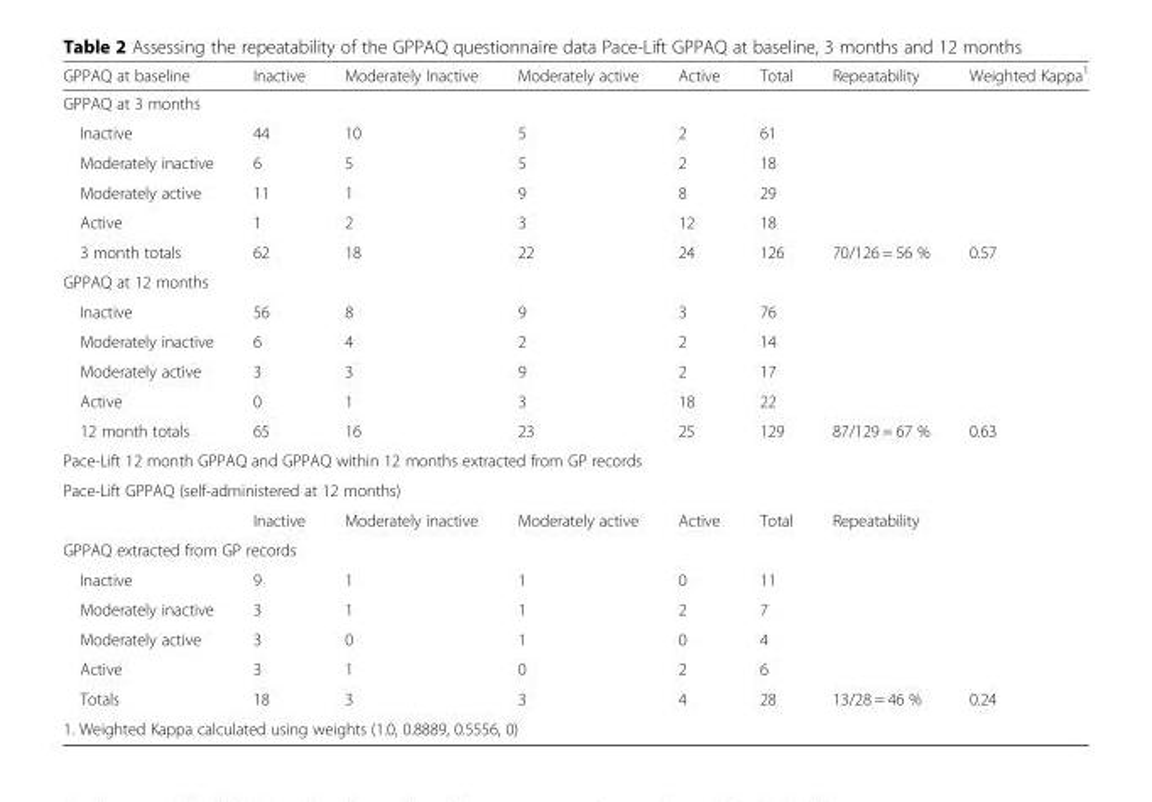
<table><thead><tr><td>GPPAQ at baseline</td><td>Inactive</td><td>Moderately Inactive</td><td>Moderately active</td><td>Active</td><td>Total</td><td>Repeatability</td><td>Weighted Kappa<sup>1</sup></td></tr></thead><tbody><tr><td colspan="8">GPPAQ at 3 months</td></tr><tr><td>Inactive</td><td>44</td><td>10</td><td>5</td><td>2</td><td>61</td><td></td><td></td></tr><tr><td>Moderately inactive</td><td>6</td><td>5</td><td>5</td><td>2</td><td>18</td><td></td><td></td></tr><tr><td>Moderately active</td><td>11</td><td>1</td><td>9</td><td>8</td><td>29</td><td></td><td></td></tr><tr><td>Active</td><td>1</td><td>2</td><td>3</td><td>12</td><td>18</td><td></td><td></td></tr><tr><td>3 month totals</td><td>62</td><td>18</td><td>22</td><td>24</td><td>126</td><td>70/126 = 56 %</td><td>0.57</td></tr><tr><td colspan="8">GPPAQ at 12 months</td></tr><tr><td>Inactive</td><td>56</td><td>8</td><td>9</td><td>3</td><td>76</td><td></td><td></td></tr><tr><td>Moderately inactive</td><td>6</td><td>4</td><td>2</td><td>2</td><td>14</td><td></td><td></td></tr><tr><td>Moderately active</td><td>3</td><td>3</td><td>9</td><td>2</td><td>17</td><td></td><td></td></tr><tr><td>Active</td><td>0</td><td>1</td><td>3</td><td>18</td><td>22</td><td></td><td></td></tr><tr><td>12 month totals</td><td>65</td><td>16</td><td>23</td><td>25</td><td>129</td><td>87/129 = 67 %</td><td>0.63</td></tr><tr><td colspan="8">Pace-Lift 12 month GPPAQ and GPPAQ within 12 months extracted from GP records</td></tr><tr><td colspan="8">Pace-Lift GPPAQ (self-administered at 12 months)</td></tr><tr><td></td><td>Inactive</td><td>Moderately inactive</td><td>Moderately active</td><td>Active</td><td>Total</td><td>Repeatability</td><td></td></tr><tr><td colspan="8">GPPAQ extracted from GP records</td></tr><tr><td>Inactive</td><td>9</td><td>1</td><td>1</td><td>0</td><td>11</td><td></td><td></td></tr><tr><td>Moderately inactive</td><td>3</td><td>1</td><td>1</td><td>2</td><td>7</td><td></td><td></td></tr><tr><td>Moderately active</td><td>3</td><td>0</td><td>1</td><td>0</td><td>4</td><td></td><td></td></tr><tr><td>Active</td><td>3</td><td>1</td><td>0</td><td>2</td><td>6</td><td></td><td></td></tr><tr><td>Totals</td><td>18</td><td>3</td><td>3</td><td>4</td><td>28</td><td>13/28 = 46 %</td><td>0.24</td></tr><tr><td colspan="8">1. Weighted Kappa calculated using weights (1.0, 0.8889, 0.5556, 0)</td></tr></tbody></table>